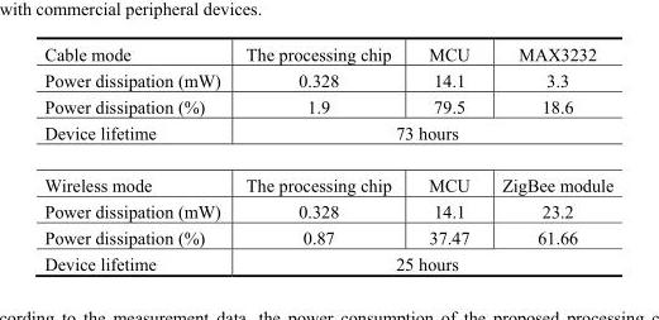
<table><tbody><tr><td>Cable mode</td><td>The processing chip</td><td>MCU</td><td>MAX3232</td></tr><tr><td>Power dissipation (mW)</td><td>0.328</td><td>14.1</td><td>3.3</td></tr><tr><td>Power dissipation (%)</td><td>1.9</td><td>79.5</td><td>18.6</td></tr><tr><td>Device lifetime</td><td colspan="3">73 hours</td></tr><tr><td>Wireless mode</td><td>The processing chip</td><td>MCU</td><td>ZigBee module</td></tr><tr><td>Power dissipation (mW)</td><td>0.328</td><td>14.1</td><td>23.2</td></tr><tr><td>Power dissipation (%)</td><td>0.87</td><td>37.47</td><td>61.66</td></tr><tr><td>Device lifetime</td><td colspan="3">25 hours</td></tr></tbody></table>